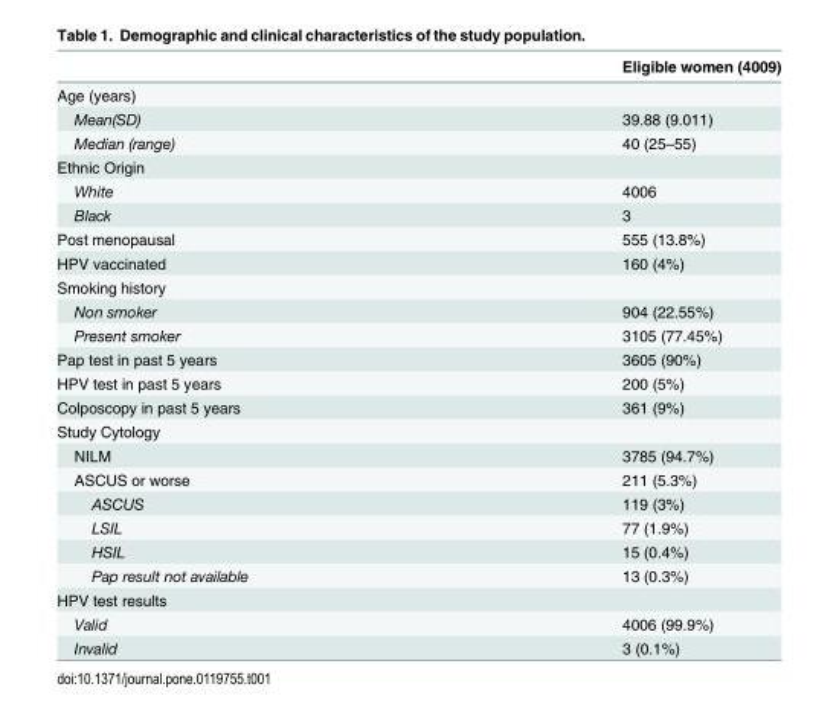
<table><thead><tr><td></td><td>Eligible women (4009)</td></tr></thead><tbody><tr><td colspan="2">Age (years)</td></tr><tr><td>Mean(SD)</td><td>39.88 (9.011)</td></tr><tr><td>Median (range)</td><td>40 (25–55)</td></tr><tr><td colspan="2">Ethnic Origin</td></tr><tr><td>White</td><td>4006</td></tr><tr><td>Black</td><td>3</td></tr><tr><td>Post menopausal</td><td>555 (13.8%)</td></tr><tr><td>HPV vaccinated</td><td>160 (4%)</td></tr><tr><td colspan="2">Smoking history</td></tr><tr><td>Non smoker</td><td>904 (22.55%)</td></tr><tr><td>Present smoker</td><td>3105 (77.45%)</td></tr><tr><td>Pap test in past 5 years</td><td>3605 (90%)</td></tr><tr><td>HPV test in past 5 years</td><td>200 (5%)</td></tr><tr><td>Colposcopy in past 5 years</td><td>361 (9%)</td></tr><tr><td colspan="2">Study Cytology</td></tr><tr><td>NILM</td><td>3785 (94.7%)</td></tr><tr><td>ASCUS or worse</td><td>211 (5.3%)</td></tr><tr><td>ASCUS</td><td>119 (3%)</td></tr><tr><td>LSIL</td><td>77 (1.9%)</td></tr><tr><td>HSIL</td><td>15 (0.4%)</td></tr><tr><td>Pap result not available</td><td>13 (0.3%)</td></tr><tr><td colspan="2">HPV test results</td></tr><tr><td>Valid</td><td>4006 (99.9%)</td></tr><tr><td>Invalid</td><td>3 (0.1%)</td></tr></tbody></table>